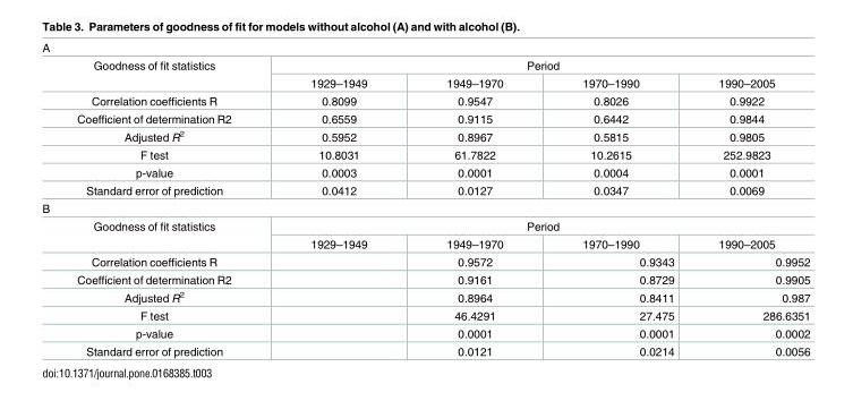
<table><tbody><tr><td colspan="5">A</td></tr><tr><td rowspan="2">Goodness of fit statistics</td><td colspan="4">Period</td></tr><tr><td>1929–1949</td><td>1949–1970</td><td>1970–1990</td><td>1990–2005</td></tr><tr><td>Correlation coefficients R</td><td>0.8099</td><td>0.9547</td><td>0.8026</td><td>0.9922</td></tr><tr><td>Coefficient of determination R2</td><td>0.6559</td><td>0.9115</td><td>0.6442</td><td>0.9844</td></tr><tr><td>Adjusted R<sup>2</sup></td><td>0.5952</td><td>0.8967</td><td>0.5815</td><td>0.9805</td></tr><tr><td>F test</td><td>10.8031</td><td>61.7822</td><td>10.2615</td><td>252.9823</td></tr><tr><td>p-value</td><td>0.0003</td><td>0.0001</td><td>0.0004</td><td>0.0001</td></tr><tr><td>Standard error of prediction</td><td>0.0412</td><td>0.0127</td><td>0.0347</td><td>0.0069</td></tr><tr><td colspan="5">B</td></tr><tr><td rowspan="2">Goodness of fit statistics</td><td colspan="4">Period</td></tr><tr><td>1929–1949</td><td>1949–1970</td><td>1970–1990</td><td>1990–2005</td></tr><tr><td>Correlation coefficients R</td><td></td><td>0.9572</td><td>0.9343</td><td>0.9952</td></tr><tr><td>Coefficient of determination R2</td><td></td><td>0.9161</td><td>0.8729</td><td>0.9905</td></tr><tr><td>Adjusted R<sup>2</sup></td><td></td><td>0.8964</td><td>0.8411</td><td>0.987</td></tr><tr><td>F test</td><td></td><td>46.4291</td><td>27.475</td><td>286.6351</td></tr><tr><td>p-value</td><td></td><td>0.0001</td><td>0.0001</td><td>0.0002</td></tr><tr><td>Standard error of prediction</td><td></td><td>0.0121</td><td>0.0214</td><td>0.0056</td></tr></tbody></table>